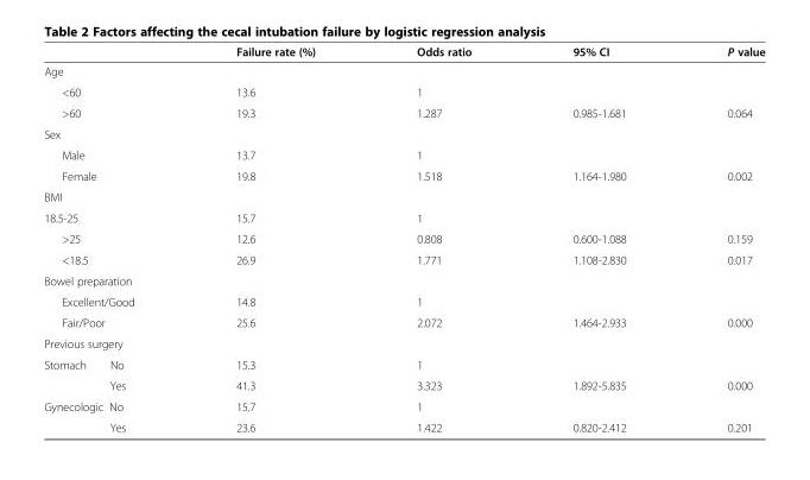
<table><thead><tr><td></td><td>Failure rate (%)</td><td>Odds ratio</td><td>95% CI</td><td>P value</td></tr></thead><tbody><tr><td colspan="5">Age</td></tr><tr><td>&lt;60</td><td>13.6</td><td>1</td><td></td><td></td></tr><tr><td>&gt;60</td><td>19.3</td><td>1.287</td><td>0.985-1.681</td><td>0.064</td></tr><tr><td colspan="5">Sex</td></tr><tr><td>Male</td><td>13.7</td><td>1</td><td></td><td></td></tr><tr><td>Female</td><td>19.8</td><td>1.518</td><td>1.164-1.980</td><td>0.002</td></tr><tr><td colspan="5">BMI</td></tr><tr><td>18.5-25</td><td>15.7</td><td>1</td><td></td><td></td></tr><tr><td>&gt;25</td><td>12.6</td><td>0.808</td><td>0.600-1.088</td><td>0.159</td></tr><tr><td>&lt;18.5</td><td>26.9</td><td>1.771</td><td>1.108-2.830</td><td>0.017</td></tr><tr><td colspan="5">Bowel preparation</td></tr><tr><td>Excellent/Good</td><td>14.8</td><td>1</td><td></td><td></td></tr><tr><td>Fair/Poor</td><td>25.6</td><td>2.072</td><td>1.464-2.933</td><td>0.000</td></tr><tr><td colspan="5">Previous surgery</td></tr><tr><td>Stomach No</td><td>15.3</td><td>1</td><td></td><td></td></tr><tr><td>Yes</td><td>41.3</td><td>3.323</td><td>1.892-5.835</td><td>0.000</td></tr><tr><td>Gynecologic No</td><td>15.7</td><td>1</td><td></td><td></td></tr><tr><td>Yes</td><td>23.6</td><td>1.422</td><td>0.820-2.412</td><td>0.201</td></tr></tbody></table>